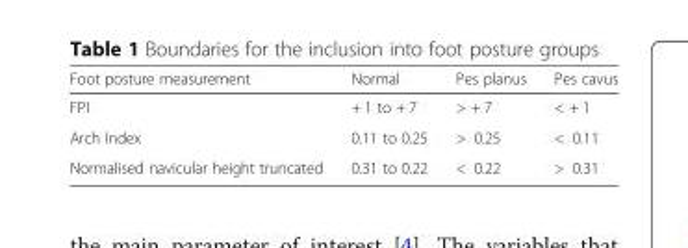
<table><thead><tr><td>Foot posture measurement</td><td>Normal</td><td>Pes planus</td><td>Pes cavus</td></tr></thead><tbody><tr><td>FPI</td><td>+ 1 to + 7</td><td>&gt; + 7</td><td>&lt; + 1</td></tr><tr><td>Arch Index</td><td>0.11 to 0.25</td><td>&gt; 0.25</td><td>&lt; 0.11</td></tr><tr><td>Normalised navicular height truncated</td><td>0.31 to 0.22</td><td>&lt; 0.22</td><td>&gt; 0.31</td></tr></tbody></table>